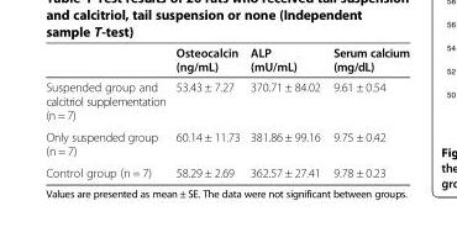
<table><thead><tr><td></td><td>Osteocalcin (ng/mL)</td><td>ALP (mU/mL)</td><td>Serum calcium (mg/dL)</td></tr></thead><tbody><tr><td>Suspended group and calcitriol supplementation (n = 7)</td><td>53.43 ± 7.27</td><td>370.71 ± 84.02</td><td>9.61 ± 0.54</td></tr><tr><td>Only suspended group (n = 7)</td><td>60.14 ± 11.73</td><td>381.86 ± 99.16</td><td>9.75 ± 0.42</td></tr><tr><td>Control group (n = 7)</td><td>58.29 ± 2.69</td><td>362.57 ± 27.41</td><td>9.78 ± 0.23</td></tr></tbody></table>